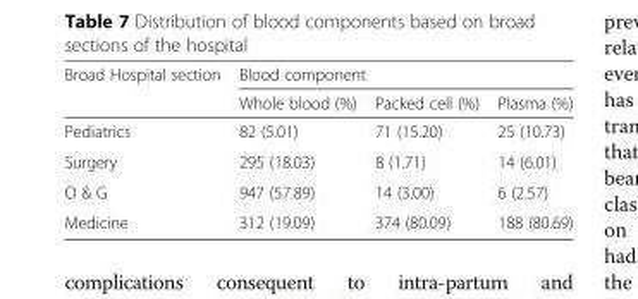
<table><thead><tr><td rowspan="2">Broad Hospital section</td><td colspan="3">Blood component</td></tr><tr><td>Whole blood (%)</td><td>Packed cell (%)</td><td>Plasma (%)</td></tr></thead><tbody><tr><td>Pediatrics</td><td>82 (5.01)</td><td>71 (15.20)</td><td>25 (10.73)</td></tr><tr><td>Surgery</td><td>295 (18.03)</td><td>8 (1.71)</td><td>14 (6.01)</td></tr><tr><td>O &amp; G</td><td>947 (57.89)</td><td>14 (3.00)</td><td>6 (2.57)</td></tr><tr><td>Medicine</td><td>312 (19.09)</td><td>374 (80.09)</td><td>188 (80.69)</td></tr></tbody></table>